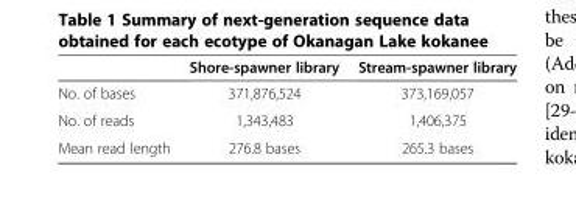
<table><thead><tr><td></td><td>Shore-spawner library</td><td>Stream-spawner library</td></tr></thead><tbody><tr><td>No. of bases</td><td>371,876,524</td><td>373,169,057</td></tr><tr><td>No. of reads</td><td>1,343,483</td><td>1,406,375</td></tr><tr><td>Mean read length</td><td>276.8 bases</td><td>265.3 bases</td></tr></tbody></table>